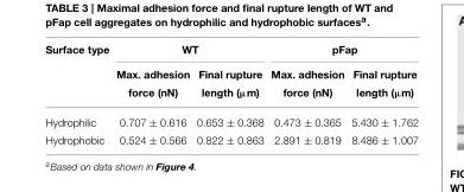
<table><thead><tr><td rowspan="2">Surface type</td><td colspan="2">WT</td><td colspan="2">pFap</td></tr><tr><td>Max. adhesion force (nN)</td><td>Final rupture length (µm)</td><td>Max. adhesion force (nN)</td><td>Final rupture length (µm)</td></tr></thead><tbody><tr><td>Hydrophilic</td><td>0.707 ± 0.616</td><td>0.653 ± 0.368</td><td>0.473 ± 0.365</td><td>5.430 ± 1.762</td></tr><tr><td>Hydrophobic</td><td>0.524 ± 0.566</td><td>0.822 ± 0.863</td><td>2.891 ± 0.819</td><td>8.486 ± 1.007</td></tr></tbody></table>